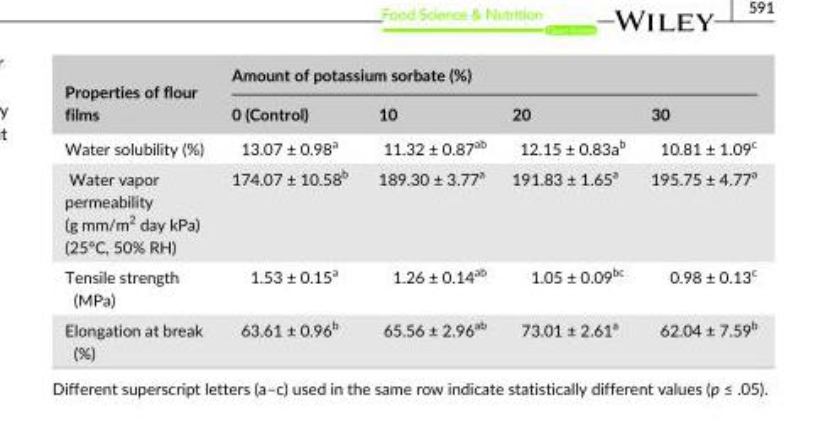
<table><thead><tr><td rowspan="2">Properties of flour films</td><td colspan="4">Amount of potassium sorbate (%)</td></tr><tr><td>0 (Control)</td><td>10</td><td>20</td><td>30</td></tr></thead><tbody><tr><td>Water solubility (%)</td><td>13.07 ± 0.98<sup>a</sup></td><td>11.32 ± 0.87<sup>ab</sup></td><td>12.15 ± 0.83a<sup>b</sup></td><td>10.81 ± 1.09<sup>c</sup></td></tr><tr><td>Water vapor permeability (g mm/m<sup>2</sup> day kPa) (25°C, 50% RH)</td><td>174.07 ± 10.58<sup>b</sup></td><td>189.30 ± 3.77<sup>a</sup></td><td>191.83 ± 1.65<sup>a</sup></td><td>195.75 ± 4.77<sup>a</sup></td></tr><tr><td>Tensile strength (MPa)</td><td>1.53 ± 0.15<sup>a</sup></td><td>1.26 ± 0.14<sup>ab</sup></td><td>1.05 ± 0.09<sup>bc</sup></td><td>0.98 ± 0.13<sup>c</sup></td></tr><tr><td>Elongation at break (%)</td><td>63.61 ± 0.96<sup>b</sup></td><td>65.56 ± 2.96<sup>ab</sup></td><td>73.01 ± 2.61<sup>a</sup></td><td>62.04 ± 7.59<sup>b</sup></td></tr></tbody></table>